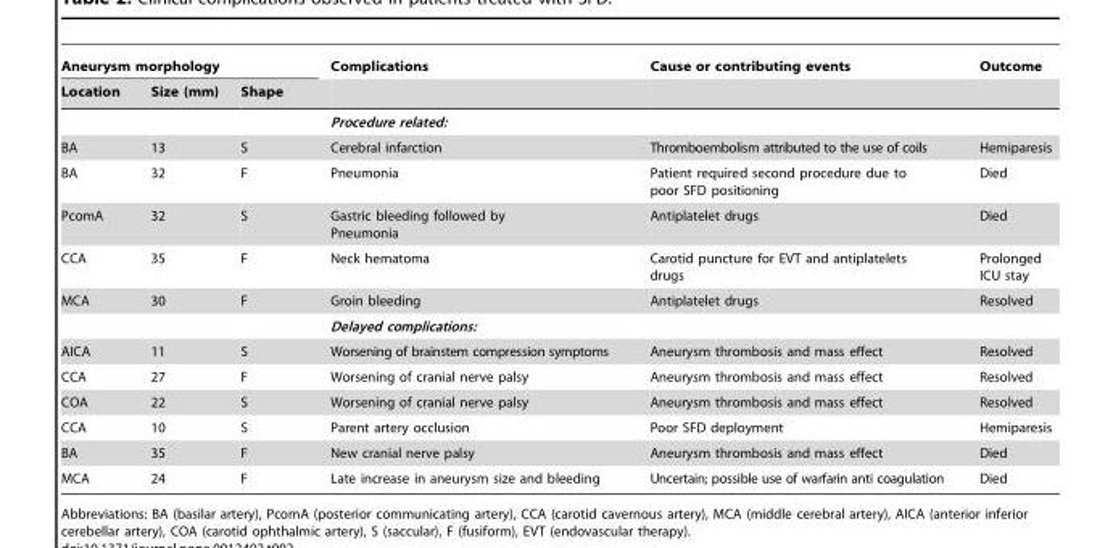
<table><thead><tr><td colspan="3">Aneurysm morphology</td><td rowspan="2">Complications</td><td rowspan="2">Cause or contributing events</td><td rowspan="2">Outcome</td></tr><tr><td>Location</td><td>Size (mm)</td><td>Shape</td></tr></thead><tbody><tr><td></td><td></td><td></td><td colspan="3">Procedure related:</td></tr><tr><td>BA</td><td>13</td><td>S</td><td>Cerebral infarction</td><td>Thromboembolism attributed to the use of coils</td><td>Hemiparesis</td></tr><tr><td>BA</td><td>32</td><td>F</td><td>Pneumonia</td><td>Patient required second procedure due to poor SFD positioning</td><td>Died</td></tr><tr><td>PcomA</td><td>32</td><td>S</td><td>Gastric bleeding followed by Pneumonia</td><td>Antiplatelet drugs</td><td>Died</td></tr><tr><td>CCA</td><td>35</td><td>F</td><td>Neck hematoma</td><td>Carotid puncture for EVT and antiplatelets drugs</td><td>Prolonged ICU stay</td></tr><tr><td rowspan="2">MCA</td><td>30</td><td>F</td><td>Groin bleeding</td><td>Antiplatelet drugs</td><td>Resolved</td></tr><tr><td></td><td></td><td colspan="3">Delayed complications:</td></tr><tr><td>AICA</td><td>11</td><td>S</td><td>Worsening of brainstem compression symptoms</td><td>Aneurysm thrombosis and mass effect</td><td>Resolved</td></tr><tr><td>CCA</td><td>27</td><td>F</td><td>Worsening of cranial nerve palsy</td><td>Aneurysm thrombosis and mass effect</td><td>Resolved</td></tr><tr><td>COA</td><td>22</td><td>S</td><td>Worsening of cranial nerve palsy</td><td>Aneurysm thrombosis and mass effect</td><td>Resolved</td></tr><tr><td>CCA</td><td>10</td><td>S</td><td>Parent artery occlusion</td><td>Poor SFD deployment</td><td>Hemiparesis</td></tr><tr><td>BA</td><td>35</td><td>F</td><td>New cranial nerve palsy</td><td>Aneurysm thrombosis and mass effect</td><td>Died</td></tr><tr><td>MCA</td><td>24</td><td>F</td><td>Late increase in aneurysm size and bleeding</td><td>Uncertain; possible use of warfarin anti coagulation</td><td>Died</td></tr></tbody></table>